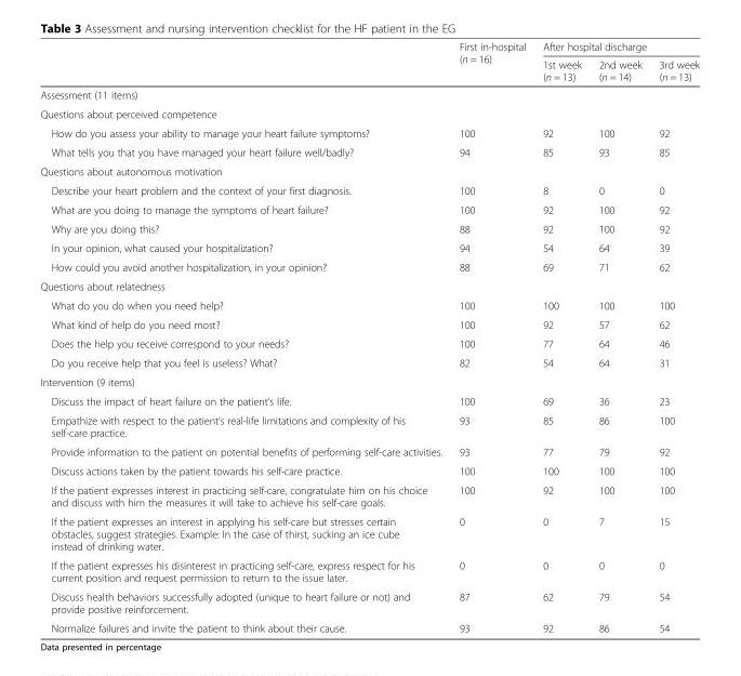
<table><thead><tr><td rowspan="2"></td><td rowspan="2">First in-hospital (n = 16)</td><td colspan="3">After hospital discharge</td></tr><tr><td>1st week (n = 13)</td><td>2nd week (n = 14)</td><td>3rd week (n = 13)</td></tr></thead><tbody><tr><td colspan="5">Assessment (11 items)</td></tr><tr><td colspan="5">Questions about perceived competence</td></tr><tr><td>How do you assess your ability to manage your heart failure symptoms?</td><td>100</td><td>92</td><td>100</td><td>92</td></tr><tr><td>What tells you that you have managed your heart failure well/badly?</td><td>94</td><td>85</td><td>93</td><td>85</td></tr><tr><td colspan="5">Questions about autonomous motivation</td></tr><tr><td>Describe your heart problem and the context of your first diagnosis.</td><td>100</td><td>8</td><td>0</td><td>0</td></tr><tr><td>What are you doing to manage the symptoms of heart failure?</td><td>100</td><td>92</td><td>100</td><td>92</td></tr><tr><td>Why are you doing this?</td><td>88</td><td>92</td><td>100</td><td>92</td></tr><tr><td>In your opinion, what caused your hospitalization?</td><td>94</td><td>54</td><td>64</td><td>39</td></tr><tr><td>How could you avoid another hospitalization, in your opinion?</td><td>88</td><td>69</td><td>71</td><td>62</td></tr><tr><td colspan="5">Questions about relatedness</td></tr><tr><td>What do you do when you need help?</td><td>100</td><td>100</td><td>100</td><td>100</td></tr><tr><td>What kind of help do you need most?</td><td>100</td><td>92</td><td>57</td><td>62</td></tr><tr><td>Does the help you receive correspond to your needs?</td><td>100</td><td>77</td><td>64</td><td>46</td></tr><tr><td>Do you receive help that you feel is useless? What?</td><td>82</td><td>54</td><td>64</td><td>31</td></tr><tr><td colspan="5">Intervention (9 items)</td></tr><tr><td>Discuss the impact of heart failure on the patient’s life.</td><td>100</td><td>69</td><td>36</td><td>23</td></tr><tr><td>Empathize with respect to the patient’s real-life limitations and complexity of his self-care practice.</td><td>93</td><td>85</td><td>86</td><td>100</td></tr><tr><td>Provide information to the patient on potential benefits of performing self-care activities.</td><td>93</td><td>77</td><td>79</td><td>92</td></tr><tr><td>Discuss actions taken by the patient towards his self-care practice.</td><td>100</td><td>100</td><td>100</td><td>100</td></tr><tr><td>If the patient expresses interest in practicing self-care, congratulate him on his choice and discuss with him the measures it will take to achieve his self-care goals.</td><td>100</td><td>92</td><td>100</td><td>100</td></tr><tr><td>If the patient expresses an interest in applying his self-care but stresses certain obstacles, suggest strategies. Example: In the case of thirst, sucking an ice cube instead of drinking water.</td><td>0</td><td>0</td><td>7</td><td>15</td></tr><tr><td>If the patient expresses his disinterest in practicing self-care, express respect for his current position and request permission to return to the issue later.</td><td>0</td><td>0</td><td>0</td><td>0</td></tr><tr><td>Discuss health behaviors successfully adopted (unique to heart failure or not) and provide positive reinforcement.</td><td>87</td><td>62</td><td>79</td><td>54</td></tr><tr><td>Normalize failures and invite the patient to think about their cause.</td><td>93</td><td>92</td><td>86</td><td>54</td></tr></tbody></table>